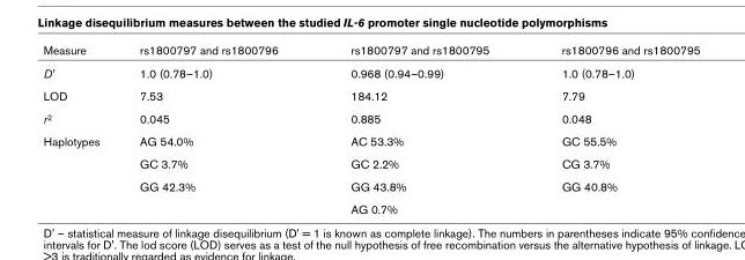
<table><thead><tr><td>Measure</td><td>rs1800797 and rs1800796</td><td>rs1800797 and rs1800795</td><td>rs1800796 and rs1800795</td></tr></thead><tbody><tr><td>D&#x27;</td><td>1.0 (0.78–1.0)</td><td>0.968 (0.94–0.99)</td><td>1.0 (0.78–1.0)</td></tr><tr><td>LOD</td><td>7.53</td><td>184.12</td><td>7.79</td></tr><tr><td>r<sup>2</sup></td><td>0.045</td><td>0.885</td><td>0.048</td></tr><tr><td rowspan="4">Haplotypes</td><td>AG 54.0%</td><td>AC 53.3%</td><td>GC 55.5%</td></tr><tr><td>GC 3.7%</td><td>GC 2.2%</td><td>CG 3.7%</td></tr><tr><td>GG 42.3%</td><td>GG 43.8%</td><td>GG 40.8%</td></tr><tr><td></td><td>AG 0.7%</td><td></td></tr></tbody></table>